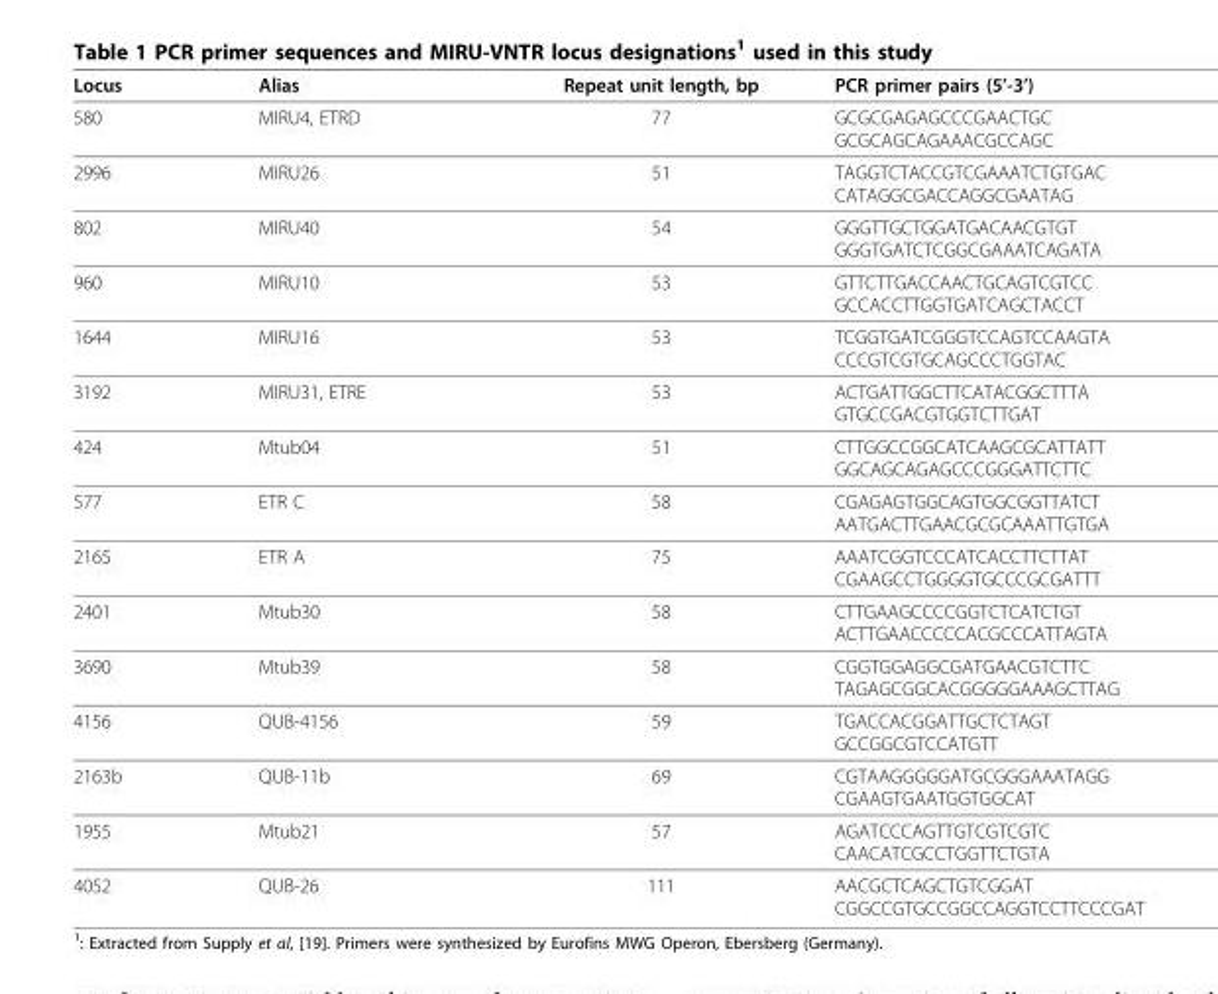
<table><thead><tr><td>Locus</td><td>Alias</td><td>Repeat unit length, bp</td><td>PCR primer pairs (5’-3’)</td></tr></thead><tbody><tr><td>580</td><td>MIRU4, ETRD</td><td>77</td><td>GCGCGAGAGCCCGAACTGC GCGCAGCAGAAACGCCAGC</td></tr><tr><td>2996</td><td>MIRU26</td><td>51</td><td>TAGGTCTACCGTCGAAATCTGTGAC CATAGGCGACCAGGCGAATAG</td></tr><tr><td>802</td><td>MIRU40</td><td>54</td><td>GGGTTGCTGGATGACAACGTGT GGGTGATCTCGGCGAAATCAGATA</td></tr><tr><td>960</td><td>MIRU10</td><td>53</td><td>GTTCTTGACCAACTGCAGTCGTCC GCCACCTTGGTGATCAGCTACCT</td></tr><tr><td>1644</td><td>MIRU16</td><td>53</td><td>TCGGTGATCGGGTCCAGTCCAAGTA CCCGTCGTGCAGCCCTGGTAC</td></tr><tr><td>3192</td><td>MIRU31, ETRE</td><td>53</td><td>ACTGATTGGCTTCATACGGCTTTA GTGCCGACGTGGTCTTGAT</td></tr><tr><td>424</td><td>Mtub04</td><td>51</td><td>CTTGGCCGGCATCAAGCGCATTATT GGCAGCAGAGCCCGGGATTCTTC</td></tr><tr><td>577</td><td>ETR C</td><td>58</td><td>CGAGAGTGGCAGTGGCGGTTATCT AATGACTTGAACGCGCAAATTGTGA</td></tr><tr><td>2165</td><td>ETR A</td><td>75</td><td>AAATCGGTCCCATCACCTTCTTAT CGAAGCCTGGGGTGCCCGCGATTT</td></tr><tr><td>2401</td><td>Mtub30</td><td>58</td><td>CTTGAAGCCCCGGTCTCATCTGT ACTTGAACCCCCACGCCCATTAGTA</td></tr><tr><td>3690</td><td>Mtub39</td><td>58</td><td>CGGTGGAGGCGATGAACGTCTTC TAGAGCGGCACGGGGGAAAGCTTAG</td></tr><tr><td>4156</td><td>QUB-4156</td><td>59</td><td>TGACCACGGATTGCTCTAGT GCCGGCGTCCATGTT</td></tr><tr><td>2163b</td><td>QUB-11b</td><td>69</td><td>CGTAAGGGGGATGCGGGAAATAGG CGAAGTGAATGGTGGCAT</td></tr><tr><td>1955</td><td>Mtub21</td><td>57</td><td>AGATCCCAGTTGTCGTCGTC CAACATCGCCTGGTTCTGTA</td></tr><tr><td>4052</td><td>QUB-26</td><td>111</td><td>AACGCTCAGCTGTCGGAT CGGCCGTGCCGGCCAGGTCCTTCCCGAT</td></tr></tbody></table>